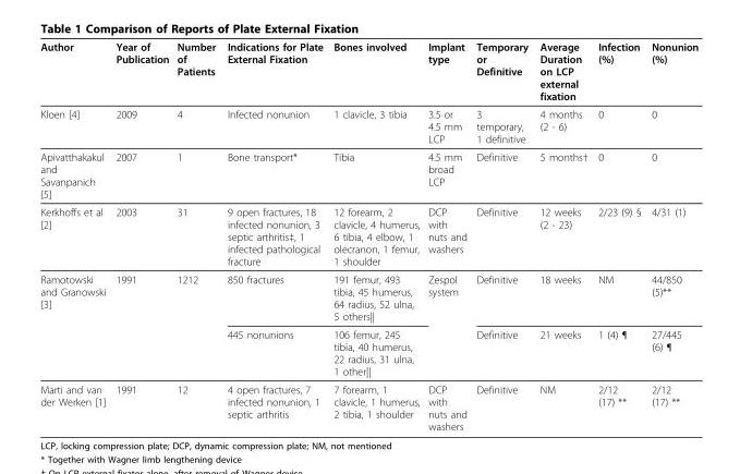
<table><thead><tr><td>Author</td><td>Year of Publication</td><td>Number of Patients</td><td>Indications for Plate External Fixation</td><td>Bones involved</td><td>Implant type</td><td>Temporary or Definitive</td><td>Average Duration on LCP external fixation</td><td>Infection (%)</td><td>Nonunion (%)</td></tr></thead><tbody><tr><td>Kloen [4]</td><td>2009</td><td>4</td><td>Infected nonunion</td><td>1 clavicle, 3 tibia</td><td>3.5 or 4.5 mm LCP</td><td>3 temporary, 1 definitive</td><td>4 months (2 - 6)</td><td>0</td><td>0</td></tr><tr><td>Apivatthakakul and Savanpanich [5]</td><td>2007</td><td>1</td><td>Bone transport*</td><td>Tibia</td><td>4.5 mm broad LCP</td><td>Definitive</td><td>5 months†</td><td>0</td><td>0</td></tr><tr><td>Kerkhoffs et al [2]</td><td>2003</td><td>31</td><td>9 open fractures, 18 infected nonunion, 3 septic arthritis‡, 1 infected pathological fracture</td><td>12 forearm, 2 clavicle, 4 humerus, 6 tibia, 4 elbow, 1 olecranon, 1 femur, 1 shoulder</td><td>DCP with nuts and washers</td><td>Definitive</td><td>12 weeks (2 - 23)</td><td>2/23 (9) §</td><td>4/31 (1)</td></tr><tr><td rowspan="2">Ramotowski and Granowski [3]</td><td>1991</td><td>1212</td><td>850 fractures</td><td>191 femur, 493 tibia, 45 humerus, 64 radius, 52 ulna, 5 others||</td><td>Zespol system</td><td>Definitive</td><td>18 weeks</td><td>NM</td><td>44/850 (5)**</td></tr><tr><td></td><td></td><td>445 nonunions</td><td>106 femur, 245 tibia, 40 humerus, 22 radius, 31 ulna, 1 other||</td><td></td><td>Definitive</td><td>21 weeks</td><td>1 (4) ¶</td><td>27/445 (6) ¶</td></tr><tr><td>Marti and van der Werken [1]</td><td>1991</td><td>12</td><td>4 open fractures, 7 infected nonunion, 1 septic arthritis</td><td>7 forearm, 1 clavicle, 1 humerus, 2 tibia, 1 shoulder</td><td>DCP with nuts and washers</td><td>Definitive</td><td>NM</td><td>2/12 (17) **</td><td>2/12 (17) **</td></tr></tbody></table>